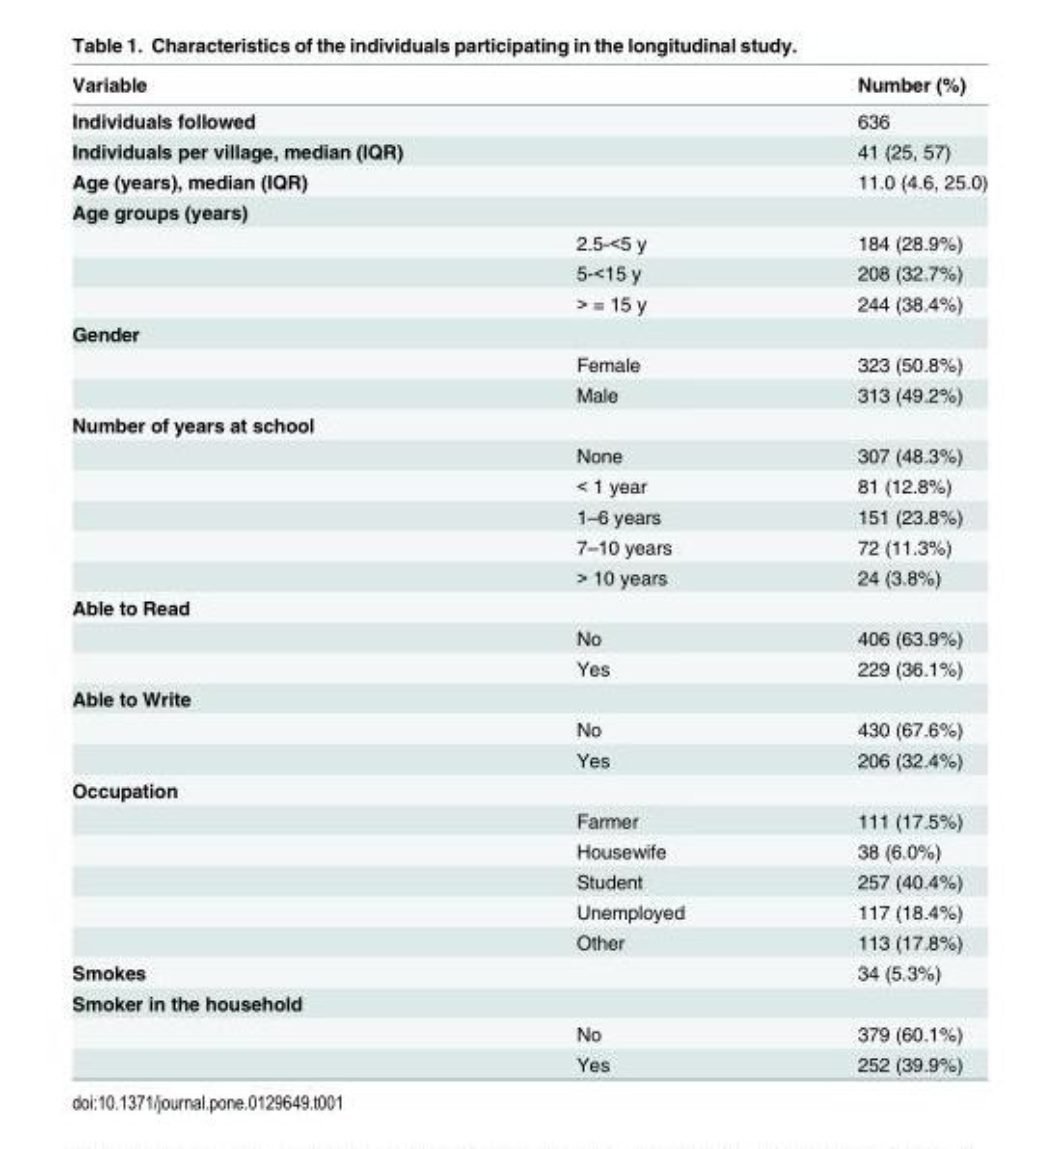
<table><thead><tr><td>Variable</td><td></td><td>Number (%)</td></tr></thead><tbody><tr><td>Individuals followed</td><td></td><td>636</td></tr><tr><td>Individuals per village, median (IQR)</td><td></td><td>41 (25, 57)</td></tr><tr><td>Age (years), median (IQR)</td><td></td><td>11.0 (4.6, 25.0)</td></tr><tr><td colspan="3">Age groups (years)</td></tr><tr><td></td><td>2.5-&lt;5 y</td><td>184 (28.9%)</td></tr><tr><td></td><td>5-&lt;15 y</td><td>208 (32.7%)</td></tr><tr><td></td><td>&gt; = 15 y</td><td>244 (38.4%)</td></tr><tr><td colspan="3">Gender</td></tr><tr><td></td><td>Female</td><td>323 (50.8%)</td></tr><tr><td></td><td>Male</td><td>313 (49.2%)</td></tr><tr><td colspan="3">Number of years at school</td></tr><tr><td></td><td>None</td><td>307 (48.3%)</td></tr><tr><td></td><td>&lt; 1 year</td><td>81 (12.8%)</td></tr><tr><td></td><td>1–6 years</td><td>151 (23.8%)</td></tr><tr><td></td><td>7–10 years</td><td>72 (11.3%)</td></tr><tr><td></td><td>&gt; 10 years</td><td>24 (3.8%)</td></tr><tr><td colspan="3">Able to Read</td></tr><tr><td></td><td>No</td><td>406 (63.9%)</td></tr><tr><td></td><td>Yes</td><td>229 (36.1%)</td></tr><tr><td colspan="3">Able to Write</td></tr><tr><td></td><td>No</td><td>430 (67.6%)</td></tr><tr><td></td><td>Yes</td><td>206 (32.4%)</td></tr><tr><td colspan="3">Occupation</td></tr><tr><td></td><td>Farmer</td><td>111 (17.5%)</td></tr><tr><td></td><td>Housewife</td><td>38 (6.0%)</td></tr><tr><td></td><td>Student</td><td>257 (40.4%)</td></tr><tr><td></td><td>Unemployed</td><td>117 (18.4%)</td></tr><tr><td></td><td>Other</td><td>113 (17.8%)</td></tr><tr><td>Smokes</td><td></td><td>34 (5.3%)</td></tr><tr><td colspan="3">Smoker in the household</td></tr><tr><td></td><td>No</td><td>379 (60.1%)</td></tr><tr><td></td><td>Yes</td><td>252 (39.9%)</td></tr></tbody></table>